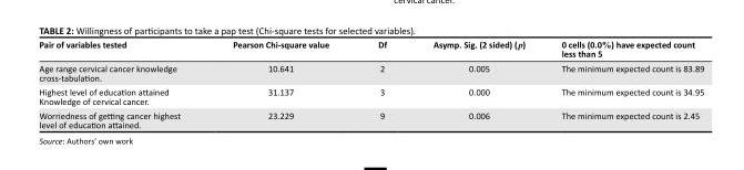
<table><thead><tr><td>Pair of variables tested</td><td>Pearson Chi-square value</td><td>Df</td><td>Asymp. Sig. (2 sided) (p)</td><td>0 cells (0.0%) have expected count less than 5</td></tr></thead><tbody><tr><td>Age range cervical cancer knowledge cross-tabulation.</td><td>10.641</td><td>2</td><td>0.005</td><td>The minimum expected count is 83.89</td></tr><tr><td>Highest level of education attained Knowledge of cervical cancer.</td><td>31.137</td><td>3</td><td>0.000</td><td>The minimum expected count is 34.95</td></tr><tr><td>Worriedness of getting cancer highest level of education attained.</td><td>23.229</td><td>9</td><td>0.006</td><td>The minimum expected count is 2.45</td></tr></tbody></table>